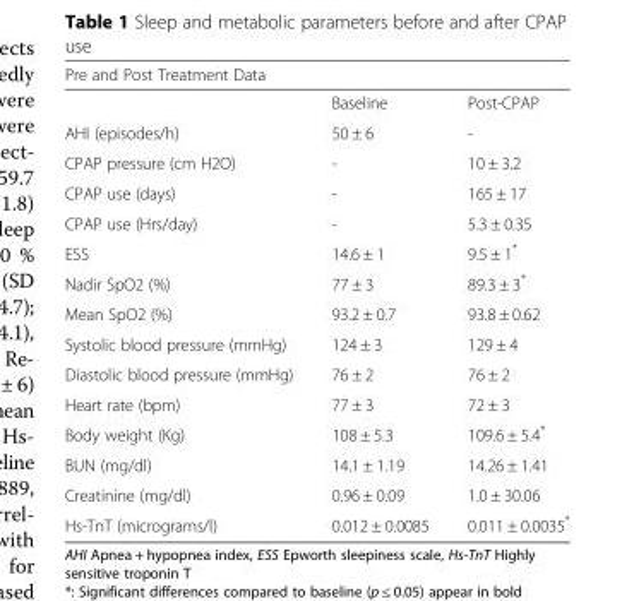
<table><thead><tr><td colspan="3">Pre and Post Treatment Data</td></tr><tr><td></td><td>Baseline</td><td>Post-CPAP</td></tr></thead><tbody><tr><td>AHI (episodes/h)</td><td>50 ± 6</td><td>-</td></tr><tr><td>CPAP pressure (cm H2O)</td><td>-</td><td>10 ± 3.2</td></tr><tr><td>CPAP use (days)</td><td>-</td><td>165 ± 17</td></tr><tr><td>CPAP use (Hrs/day)</td><td>-</td><td>5.3 ± 0.35</td></tr><tr><td>ESS</td><td>14.6 ± 1</td><td>9.5 ± 1*</td></tr><tr><td>Nadir SpO2 (%)</td><td>77 ± 3</td><td>89.3 ± 3*</td></tr><tr><td>Mean SpO2 (%)</td><td>93.2 ± 0.7</td><td>93.8 ± 0.62</td></tr><tr><td>Systolic blood pressure (mmHg)</td><td>124 ± 3</td><td>129 ± 4</td></tr><tr><td>Diastolic blood pressure (mmHg)</td><td>76 ± 2</td><td>76 ± 2</td></tr><tr><td>Heart rate (bpm)</td><td>77 ± 3</td><td>72 ± 3</td></tr><tr><td>Body weight (Kg)</td><td>108 ± 5.3</td><td>109.6 ± 5.4*</td></tr><tr><td>BUN (mg/dl)</td><td>14.1 ± 1.19</td><td>14.26 ± 1.41</td></tr><tr><td>Creatinine (mg/dl)</td><td>0.96 ± 0.09</td><td>1.0 ± 30.06</td></tr><tr><td>Hs-TnT (micrograms/l)</td><td>0.012 ± 0.0085</td><td>0.011 ± 0.0035*</td></tr></tbody></table>